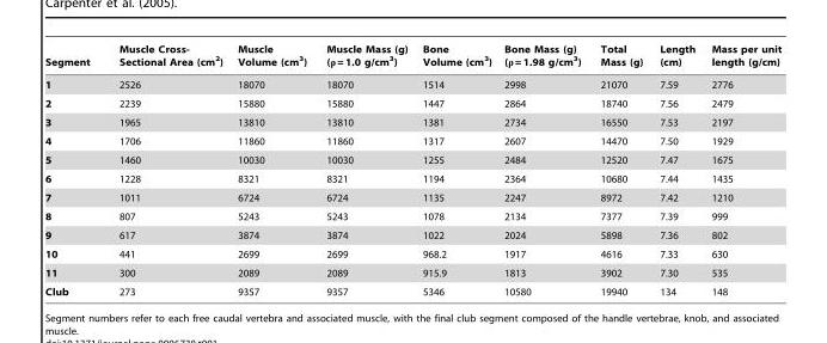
<table><thead><tr><td>Segment</td><td>Muscle Cross- Sectional Area (cm<sup>2</sup>)</td><td>Muscle Volume (cm<sup>3</sup>)</td><td>Muscle Mass (g) (ρ = 1.0 g/cm<sup>3</sup>)</td><td>Bone Volume (cm<sup>3</sup>)</td><td>Bone Mass (g) (ρ = 1.98 g/cm<sup>3</sup>)</td><td>Total Mass (g)</td><td>Length (cm)</td><td>Mass per unit length (g/cm)</td></tr></thead><tbody><tr><td>1</td><td>2526</td><td>18070</td><td>18070</td><td>1514</td><td>2998</td><td>21070</td><td>7.59</td><td>2776</td></tr><tr><td>2</td><td>2239</td><td>15880</td><td>15880</td><td>1447</td><td>2864</td><td>18740</td><td>7.56</td><td>2479</td></tr><tr><td>3</td><td>1965</td><td>13810</td><td>13810</td><td>1381</td><td>2734</td><td>16550</td><td>7.53</td><td>2197</td></tr><tr><td>4</td><td>1706</td><td>11860</td><td>11860</td><td>1317</td><td>2607</td><td>14470</td><td>7.50</td><td>1929</td></tr><tr><td>5</td><td>1460</td><td>10030</td><td>10030</td><td>1255</td><td>2484</td><td>12520</td><td>7.47</td><td>1675</td></tr><tr><td>6</td><td>1228</td><td>8321</td><td>8321</td><td>1194</td><td>2364</td><td>10680</td><td>7.44</td><td>1435</td></tr><tr><td>7</td><td>1011</td><td>6724</td><td>6724</td><td>1135</td><td>2247</td><td>8972</td><td>7.42</td><td>1210</td></tr><tr><td>8</td><td>807</td><td>5243</td><td>5243</td><td>1078</td><td>2134</td><td>7377</td><td>7.39</td><td>999</td></tr><tr><td>9</td><td>617</td><td>3874</td><td>3874</td><td>1022</td><td>2024</td><td>5898</td><td>7.36</td><td>802</td></tr><tr><td>10</td><td>441</td><td>2699</td><td>2699</td><td>968.2</td><td>1917</td><td>4616</td><td>7.33</td><td>630</td></tr><tr><td>11</td><td>300</td><td>2089</td><td>2089</td><td>915.9</td><td>1813</td><td>3902</td><td>7.30</td><td>535</td></tr><tr><td>Club</td><td>273</td><td>9357</td><td>9357</td><td>5346</td><td>10580</td><td>19940</td><td>134</td><td>148</td></tr></tbody></table>